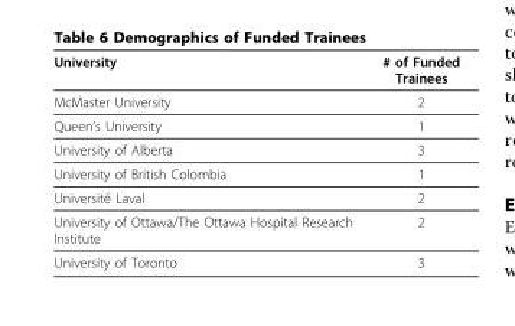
<table><thead><tr><td>University</td><td># of Funded Trainees</td></tr></thead><tbody><tr><td>McMaster University</td><td>2</td></tr><tr><td>Queen’s University</td><td>1</td></tr><tr><td>University of Alberta</td><td>3</td></tr><tr><td>University of British Colombia</td><td>1</td></tr><tr><td>Université Laval</td><td>2</td></tr><tr><td>University of Ottawa/The Ottawa Hospital Research Institute</td><td>2</td></tr><tr><td>University of Toronto</td><td>3</td></tr></tbody></table>